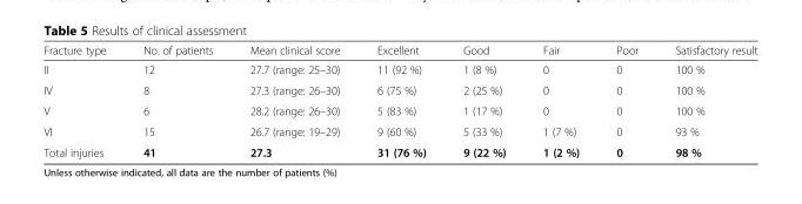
<table><thead><tr><td>Fracture type</td><td>No. of patients</td><td>Mean clinical score</td><td>Excellent</td><td>Good</td><td>Fair</td><td>Poor</td><td>Satisfactory result</td></tr></thead><tbody><tr><td>II</td><td>12</td><td>27.7 (range: 25–30)</td><td>11 (92 %)</td><td>1 (8 %)</td><td>0</td><td>0</td><td>100 %</td></tr><tr><td>IV</td><td>8</td><td>27.3 (range: 26–30)</td><td>6 (75 %)</td><td>2 (25 %)</td><td>0</td><td>0</td><td>100 %</td></tr><tr><td>V</td><td>6</td><td>28.2 (range: 26–30)</td><td>5 (83 %)</td><td>1 (17 %)</td><td>0</td><td>0</td><td>100 %</td></tr><tr><td>VI</td><td>15</td><td>26.7 (range: 19–29)</td><td>9 (60 %)</td><td>5 (33 %)</td><td>1 (7 %)</td><td>0</td><td>93 %</td></tr><tr><td>Total injuries</td><td>41</td><td>27.3</td><td>31 (76 %)</td><td>9 (22 %)</td><td>1 (2 %)</td><td>0</td><td>98 %</td></tr></tbody></table>